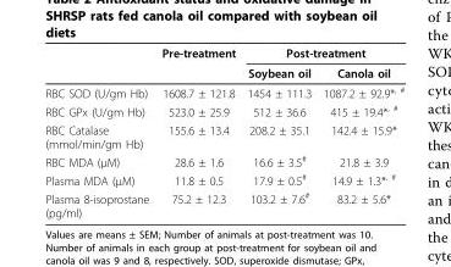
<table><thead><tr><td rowspan="2"></td><td rowspan="2">Pre-treatment</td><td colspan="2">Post-treatment</td></tr><tr><td>Soybean oil</td><td>Canola oil</td></tr></thead><tbody><tr><td>RBC SOD (U/gm Hb)</td><td>1608.7 ± 121.8</td><td>1454 ± 111.3</td><td>1087.2 ± 92.9*<sup>, #</sup></td></tr><tr><td>RBC GPx (U/gm Hb)</td><td>523.0 ± 25.9</td><td>512 ± 36.6</td><td>415 ± 19.4*<sup>, #</sup></td></tr><tr><td>RBC Catalase (mmol/min/gm Hb)</td><td>155.6 ± 13.4</td><td>208.2 ± 35.1</td><td>142.4 ± 15.9*</td></tr><tr><td>RBC MDA (μM)</td><td>28.6 ± 1.6</td><td>16.6 ± 3.5<sup>#</sup></td><td>21.8 ± 3.9</td></tr><tr><td>Plasma MDA (μM)</td><td>11.8 ± 0.5</td><td>17.9 ± 0.5<sup>#</sup></td><td>14.9 ± 1.3*<sup>, #</sup></td></tr><tr><td>Plasma 8-isoprostane (pg/ml)</td><td>75.2 ± 12.3</td><td>103.2 ± 7.6<sup>#</sup></td><td>83.2 ± 5.6*</td></tr></tbody></table>